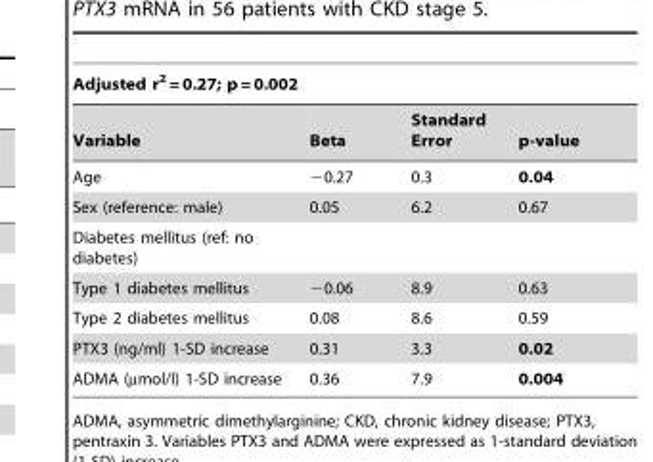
<table><thead><tr><td colspan="4">Adjusted r<sup>2</sup> = 0.27; p = 0.002</td></tr><tr><td>Variable</td><td>Beta</td><td>Standard Error</td><td>p-value</td></tr></thead><tbody><tr><td>Age</td><td>−0.27</td><td>0.3</td><td>0.04</td></tr><tr><td>Sex (reference: male)</td><td>0.05</td><td>6.2</td><td>0.67</td></tr><tr><td colspan="4">Diabetes mellitus (ref: no diabetes)</td></tr><tr><td>Type 1 diabetes mellitus</td><td>−0.06</td><td>8.9</td><td>0.63</td></tr><tr><td>Type 2 diabetes mellitus</td><td>0.08</td><td>8.6</td><td>0.59</td></tr><tr><td>PTX3 (ng/ml) 1-SD increase</td><td>0.31</td><td>3.3</td><td>0.02</td></tr><tr><td>ADMA (µmol/l) 1-SD increase</td><td>0.36</td><td>7.9</td><td>0.004</td></tr></tbody></table>